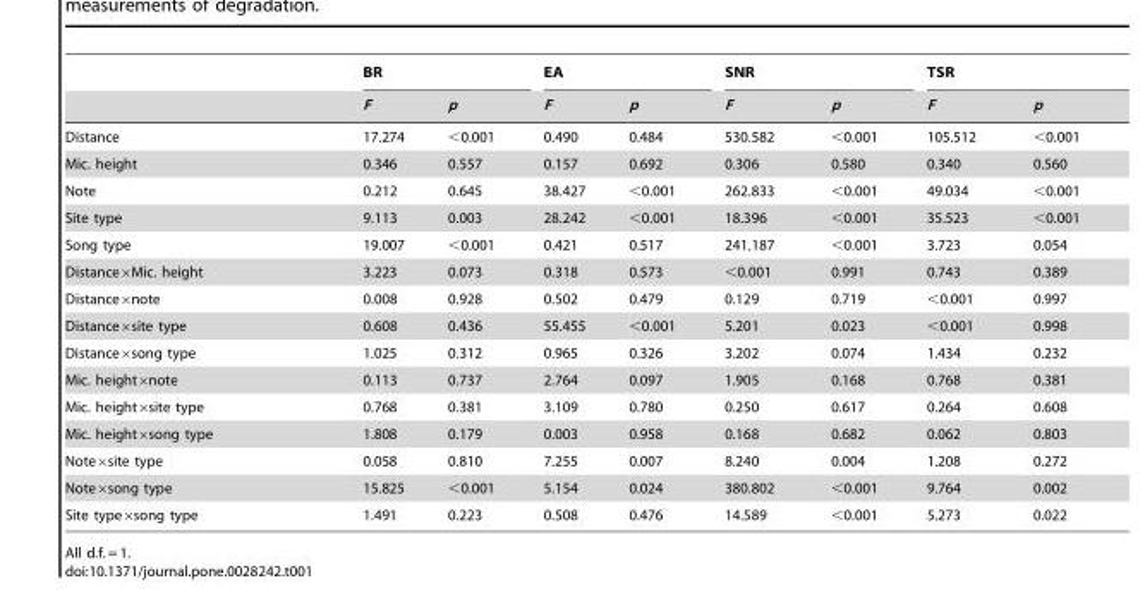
<table><thead><tr><td rowspan="2"></td><td colspan="2">BR</td><td colspan="2">EA</td><td colspan="2">SNR</td><td colspan="2">TSR</td></tr><tr><td>F</td><td>p</td><td>F</td><td>p</td><td>F</td><td>p</td><td>F</td><td>p</td></tr></thead><tbody><tr><td>Distance</td><td>17.274</td><td>&lt;0.001</td><td>0.490</td><td>0.484</td><td>530.582</td><td>&lt;0.001</td><td>105.512</td><td>&lt;0.001</td></tr><tr><td>Mic. height</td><td>0.346</td><td>0.557</td><td>0.157</td><td>0.692</td><td>0.306</td><td>0.580</td><td>0.340</td><td>0.560</td></tr><tr><td>Note</td><td>0.212</td><td>0.645</td><td>38.427</td><td>&lt;0.001</td><td>262.833</td><td>&lt;0.001</td><td>49.034</td><td>&lt;0.001</td></tr><tr><td>Site type</td><td>9.113</td><td>0.003</td><td>28.242</td><td>&lt;0.001</td><td>18.396</td><td>&lt;0.001</td><td>35.523</td><td>&lt;0.001</td></tr><tr><td>Song type</td><td>19.007</td><td>&lt;0.001</td><td>0.421</td><td>0.517</td><td>241.187</td><td>&lt;0.001</td><td>3.723</td><td>0.054</td></tr><tr><td>Distance×Mic. height</td><td>3.223</td><td>0.073</td><td>0.318</td><td>0.573</td><td>&lt;0.001</td><td>0.991</td><td>0.743</td><td>0.389</td></tr><tr><td>Distance×note</td><td>0.008</td><td>0.928</td><td>0.502</td><td>0.479</td><td>0.129</td><td>0.719</td><td>&lt;0.001</td><td>0.997</td></tr><tr><td>Distance×site type</td><td>0.608</td><td>0.436</td><td>55.455</td><td>&lt;0.001</td><td>5.201</td><td>0.023</td><td>&lt;0.001</td><td>0.998</td></tr><tr><td>Distance×song type</td><td>1.025</td><td>0.312</td><td>0.965</td><td>0.326</td><td>3.202</td><td>0.074</td><td>1.434</td><td>0.232</td></tr><tr><td>Mic. height×note</td><td>0.113</td><td>0.737</td><td>2.764</td><td>0.097</td><td>1.905</td><td>0.168</td><td>0.768</td><td>0.381</td></tr><tr><td>Mic. height×site type</td><td>0.768</td><td>0.381</td><td>3.109</td><td>0.780</td><td>0.250</td><td>0.617</td><td>0.264</td><td>0.608</td></tr><tr><td>Mic. height×song type</td><td>1.808</td><td>0.179</td><td>0.003</td><td>0.958</td><td>0.168</td><td>0.682</td><td>0.062</td><td>0.803</td></tr><tr><td>Note×site type</td><td>0.058</td><td>0.810</td><td>7.255</td><td>0.007</td><td>8.240</td><td>0.004</td><td>1.208</td><td>0.272</td></tr><tr><td>Note×song type</td><td>15.825</td><td>&lt;0.001</td><td>5.154</td><td>0.024</td><td>380.802</td><td>&lt;0.001</td><td>9.764</td><td>0.002</td></tr><tr><td>Site type×song type</td><td>1.491</td><td>0.223</td><td>0.508</td><td>0.476</td><td>14.589</td><td>&lt;0.001</td><td>5.273</td><td>0.022</td></tr></tbody></table>